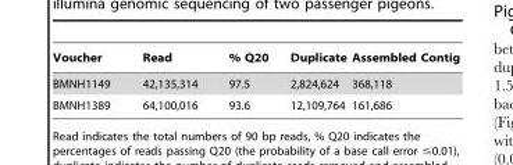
<table><thead><tr><td>Voucher</td><td>Read</td><td>% Q20</td><td>Duplicate</td><td>Assembled Contig</td></tr></thead><tbody><tr><td>BMNH1149</td><td>42,135,314</td><td>97.5</td><td>2,824,624</td><td>368,118</td></tr><tr><td>BMNH1389</td><td>64,100,016</td><td>93.6</td><td>12,109,764</td><td>161,686</td></tr></tbody></table>